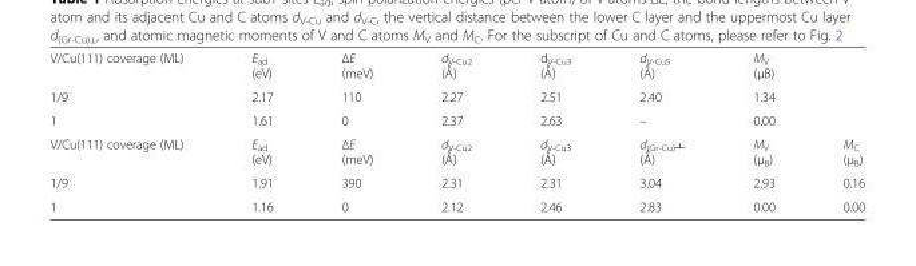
<table><tbody><tr><td>V/Cu(111) coverage (ML)</td><td>E<sub>ad</sub> (eV)</td><td>ΔE (meV)</td><td>d<sub>V-Cu2</sub> (Ǻ)</td><td>d<sub>V-Cu3</sub> (Ǻ)</td><td>d<sub>V-Cu5</sub> (Ǻ)</td><td>M<sub>V</sub> (μB)</td><td></td></tr><tr><td>1/9</td><td>2.17</td><td>110</td><td>2.27</td><td>2.51</td><td>2.40</td><td>1.34</td><td></td></tr><tr><td>1</td><td>1.61</td><td>0</td><td>2.37</td><td>2.63</td><td>–</td><td>0.00</td><td></td></tr><tr><td>V/Cu(111) coverage (ML)</td><td>E<sub>ad</sub> (eV)</td><td>ΔE (meV)</td><td>d<sub>V-Cu2</sub> (Ǻ)</td><td>d<sub>V-Cu3</sub> (Ǻ)</td><td>d<sub>(Gr-Cu)┴</sub> (Ǻ)</td><td>M<sub>V</sub> (μ<sub>B</sub>)</td><td>M<sub>C</sub> (μ<sub>B</sub>)</td></tr><tr><td>1/9</td><td>1.91</td><td>390</td><td>2.31</td><td>2.31</td><td>3.04</td><td>2.93</td><td>0.16</td></tr><tr><td>1</td><td>1.16</td><td>0</td><td>2.12</td><td>2.46</td><td>2.83</td><td>0.00</td><td>0.00</td></tr></tbody></table>